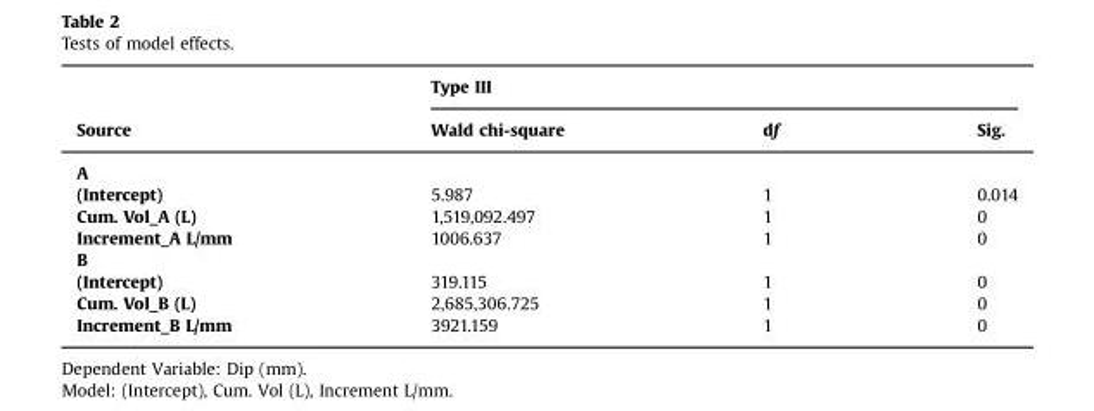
<table><thead><tr><td rowspan="2">Source</td><td colspan="3">Type III</td></tr><tr><td>Wald chi-square</td><td>df</td><td>Sig.</td></tr></thead><tbody><tr><td colspan="4">A</td></tr><tr><td>(Intercept)</td><td>5.987</td><td>1</td><td>0.014</td></tr><tr><td>Cum. Vol_A (L)</td><td>1,519,092.497</td><td>1</td><td>0</td></tr><tr><td>Increment_A L/mm</td><td>1006.637</td><td>1</td><td>0</td></tr><tr><td colspan="4">B</td></tr><tr><td>(Intercept)</td><td>319.115</td><td>1</td><td>0</td></tr><tr><td>Cum. Vol_B (L)</td><td>2,685,306.725</td><td>1</td><td>0</td></tr><tr><td>Increment_B L/mm</td><td>3921.159</td><td>1</td><td>0</td></tr></tbody></table>